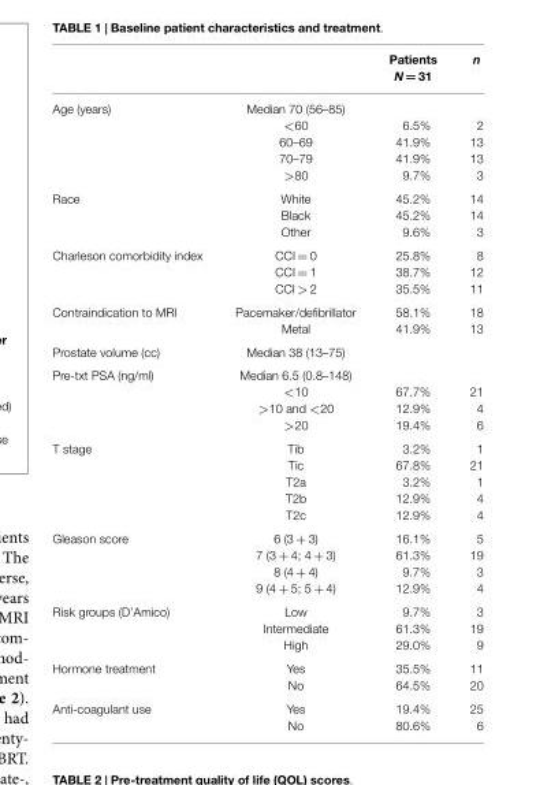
<table><thead><tr><td rowspan="2"></td><td rowspan="2"></td><td rowspan="2">Patients N= = = 31</td><td rowspan="2">n</td></tr><tr></tr></thead><tbody><tr><td rowspan="5">Age (years)</td><td>Median 70 (56–85)</td><td></td><td></td></tr><tr><td>&lt;60</td><td>6.5%</td><td>2</td></tr><tr><td>60–69</td><td>41.9%</td><td>13</td></tr><tr><td>70–79</td><td>41.9%</td><td>13</td></tr><tr><td>&gt;80</td><td>9.7%</td><td>3</td></tr><tr><td rowspan="3">Race</td><td>White</td><td>45.2%</td><td>14</td></tr><tr><td>Black</td><td>45.2%</td><td>14</td></tr><tr><td>Other</td><td>9.6%</td><td>3</td></tr><tr><td rowspan="3">Charleson comorbidity index</td><td>CCI = 0</td><td>25.8%</td><td>8</td></tr><tr><td>CCI = 1</td><td>38.7%</td><td>12</td></tr><tr><td>CCI &gt; 2</td><td>35.5%</td><td>11</td></tr><tr><td rowspan="2">Contraindication to MRI</td><td>Pacemaker/defibrillator</td><td>58.1%</td><td>18</td></tr><tr><td>Metal</td><td>41.9%</td><td>13</td></tr><tr><td>Prostate volume (cc)</td><td>Median 38 (13–75)</td><td></td><td></td></tr><tr><td rowspan="4">Pre-txt PSA (ng/ml)</td><td>Median 6.5 (0.8–148)</td><td></td><td></td></tr><tr><td>&lt;10</td><td>67.7%</td><td>21</td></tr><tr><td>&gt;10 and &lt;20</td><td>12.9%</td><td>4</td></tr><tr><td>&gt;20</td><td>19.4%</td><td>6</td></tr><tr><td rowspan="5">T stage</td><td>Tib</td><td>3.2%</td><td>1</td></tr><tr><td>Tic</td><td>67.8%</td><td>21</td></tr><tr><td>T2a</td><td>3.2%</td><td>1</td></tr><tr><td>T2b</td><td>12.9%</td><td>4</td></tr><tr><td>T2c</td><td>12.9%</td><td>4</td></tr><tr><td rowspan="4">Gleason score</td><td>6 (3 + 3)</td><td>16.1%</td><td>5</td></tr><tr><td>7 (3 + 4; 4 + 3)</td><td>61.3%</td><td>19</td></tr><tr><td>8 (4 + 4)</td><td>9.7%</td><td>3</td></tr><tr><td>9 (4 + 5; 5 + 4)</td><td>12.9%</td><td>4</td></tr><tr><td rowspan="3">Risk groups (D’Amico)</td><td>Low</td><td>9.7%</td><td>3</td></tr><tr><td>Intermediate</td><td>61.3%</td><td>19</td></tr><tr><td>High</td><td>29.0%</td><td>9</td></tr><tr><td rowspan="2">Hormone treatment</td><td>Yes</td><td>35.5%</td><td>11</td></tr><tr><td>No</td><td>64.5%</td><td>20</td></tr><tr><td rowspan="2">Anti-coagulant use</td><td>Yes</td><td>19.4%</td><td>25</td></tr><tr><td>No</td><td>80.6%</td><td>6</td></tr></tbody></table>